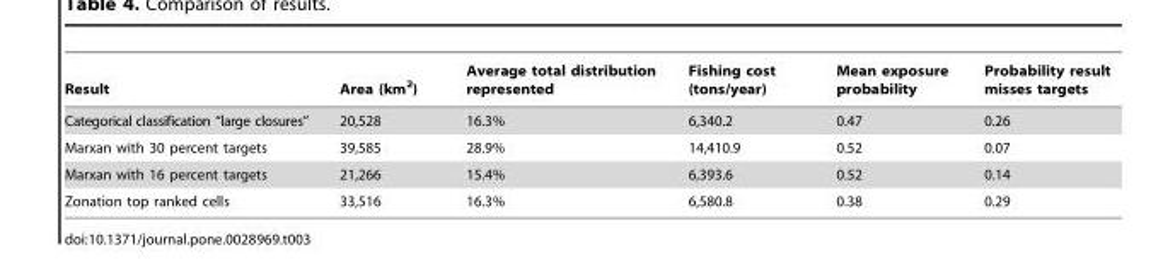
<table><thead><tr><td>Result</td><td>Area (km<sup>2</sup>)</td><td>Average total distribution represented</td><td>Fishing cost (tons/year)</td><td>Mean exposure probability</td><td>Probability result misses targets</td></tr></thead><tbody><tr><td>Categorical classification ‘‘large closures’’</td><td>20,528</td><td>16.3%</td><td>6,340.2</td><td>0.47</td><td>0.26</td></tr><tr><td>Marxan with 30 percent targets</td><td>39,585</td><td>28.9%</td><td>14,410.9</td><td>0.52</td><td>0.07</td></tr><tr><td>Marxan with 16 percent targets</td><td>21,266</td><td>15.4%</td><td>6,393.6</td><td>0.52</td><td>0.14</td></tr><tr><td>Zonation top ranked cells</td><td>33,516</td><td>16.3%</td><td>6,580.8</td><td>0.38</td><td>0.29</td></tr></tbody></table>